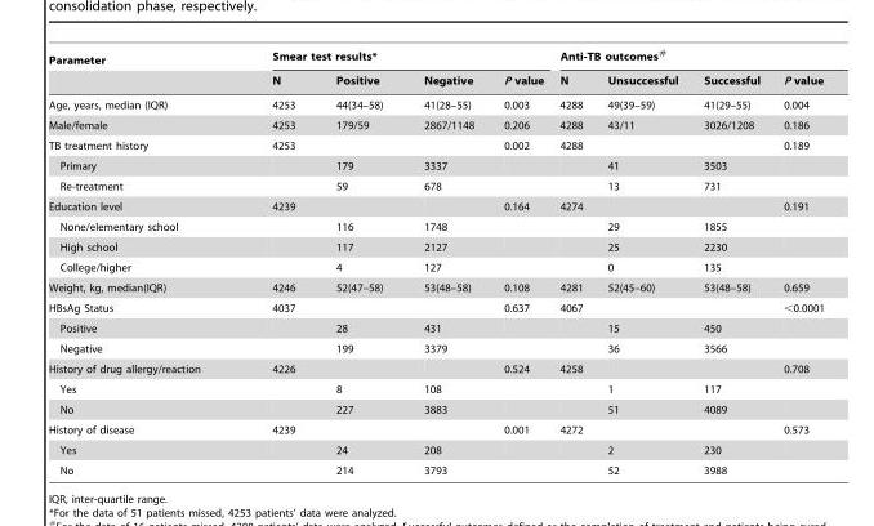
<table><thead><tr><td rowspan="2">Parameter</td><td colspan="4">Smear test results*</td><td colspan="4">Anti-TB outcomes#</td></tr><tr><td>N</td><td>Positive</td><td>Negative</td><td>P value</td><td>N</td><td>Unsuccessful</td><td>Successful</td><td>P value</td></tr></thead><tbody><tr><td>Age, years, median (IQR)</td><td>4253</td><td>44(34–58)</td><td>41(28–55)</td><td>0.003</td><td>4288</td><td>49(39–59)</td><td>41(29–55)</td><td>0.004</td></tr><tr><td>Male/female</td><td>4253</td><td>179/59</td><td>2867/1148</td><td>0.206</td><td>4288</td><td>43/11</td><td>3026/1208</td><td>0.186</td></tr><tr><td>TB treatment history</td><td>4253</td><td></td><td></td><td>0.002</td><td>4288</td><td></td><td></td><td>0.189</td></tr><tr><td>Primary</td><td></td><td>179</td><td>3337</td><td></td><td></td><td>41</td><td>3503</td><td></td></tr><tr><td>Re-treatment</td><td></td><td>59</td><td>678</td><td></td><td></td><td>13</td><td>731</td><td></td></tr><tr><td>Education level</td><td>4239</td><td></td><td></td><td>0.164</td><td>4274</td><td></td><td></td><td>0.191</td></tr><tr><td>None/elementary school</td><td></td><td>116</td><td>1748</td><td></td><td></td><td>29</td><td>1855</td><td></td></tr><tr><td>High school</td><td></td><td>117</td><td>2127</td><td></td><td></td><td>25</td><td>2230</td><td></td></tr><tr><td>College/higher</td><td></td><td>4</td><td>127</td><td></td><td></td><td>0</td><td>135</td><td></td></tr><tr><td>Weight, kg, median(IQR)</td><td>4246</td><td>52(47–58)</td><td>53(48–58)</td><td>0.108</td><td>4281</td><td>52(45–60)</td><td>53(48–58)</td><td>0.659</td></tr><tr><td>HBsAg Status</td><td>4037</td><td></td><td></td><td>0.637</td><td>4067</td><td></td><td></td><td>&lt;0.0001</td></tr><tr><td>Positive</td><td></td><td>28</td><td>431</td><td></td><td></td><td>15</td><td>450</td><td></td></tr><tr><td>Negative</td><td></td><td>199</td><td>3379</td><td></td><td></td><td>36</td><td>3566</td><td></td></tr><tr><td>History of drug allergy/reaction</td><td>4226</td><td></td><td></td><td>0.524</td><td>4258</td><td></td><td></td><td>0.708</td></tr><tr><td>Yes</td><td></td><td>8</td><td>108</td><td></td><td></td><td>1</td><td>117</td><td></td></tr><tr><td>No</td><td></td><td>227</td><td>3883</td><td></td><td></td><td>51</td><td>4089</td><td></td></tr><tr><td>History of disease</td><td>4239</td><td></td><td></td><td>0.001</td><td>4272</td><td></td><td></td><td>0.573</td></tr><tr><td>Yes</td><td></td><td>24</td><td>208</td><td></td><td></td><td>2</td><td>230</td><td></td></tr><tr><td>No</td><td></td><td>214</td><td>3793</td><td></td><td></td><td>52</td><td>3988</td><td></td></tr></tbody></table>